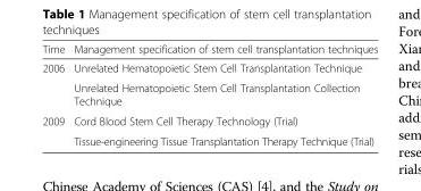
<table><thead><tr><td>Time</td><td>Management specification of stem cell transplantation techniques</td></tr></thead><tbody><tr><td rowspan="2">2006</td><td>Unrelated Hematopoietic Stem Cell Transplantation Technique</td></tr><tr><td>Unrelated Hematopoietic Stem Cell Transplantation Collection Technique</td></tr><tr><td rowspan="2">2009</td><td>Cord Blood Stem Cell Therapy Technology (Trial)</td></tr><tr><td>Tissue-engineering Tissue Transplantation Therapy Technique (Trial)</td></tr></tbody></table>